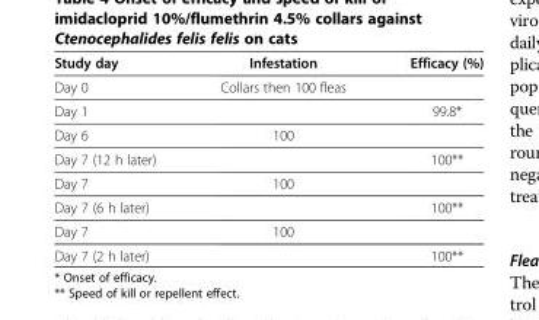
<table><thead><tr><td>Study day</td><td>Infestation</td><td>Efficacy (%)</td></tr></thead><tbody><tr><td>Day 0</td><td>Collars then 100 fleas</td><td></td></tr><tr><td>Day 1</td><td></td><td>99.8*</td></tr><tr><td>Day 6</td><td>100</td><td></td></tr><tr><td>Day 7 (12 h later)</td><td></td><td>100**</td></tr><tr><td>Day 7</td><td>100</td><td></td></tr><tr><td>Day 7 (6 h later)</td><td></td><td>100**</td></tr><tr><td>Day 7</td><td>100</td><td></td></tr><tr><td>Day 7 (2 h later)</td><td></td><td>100**</td></tr></tbody></table>